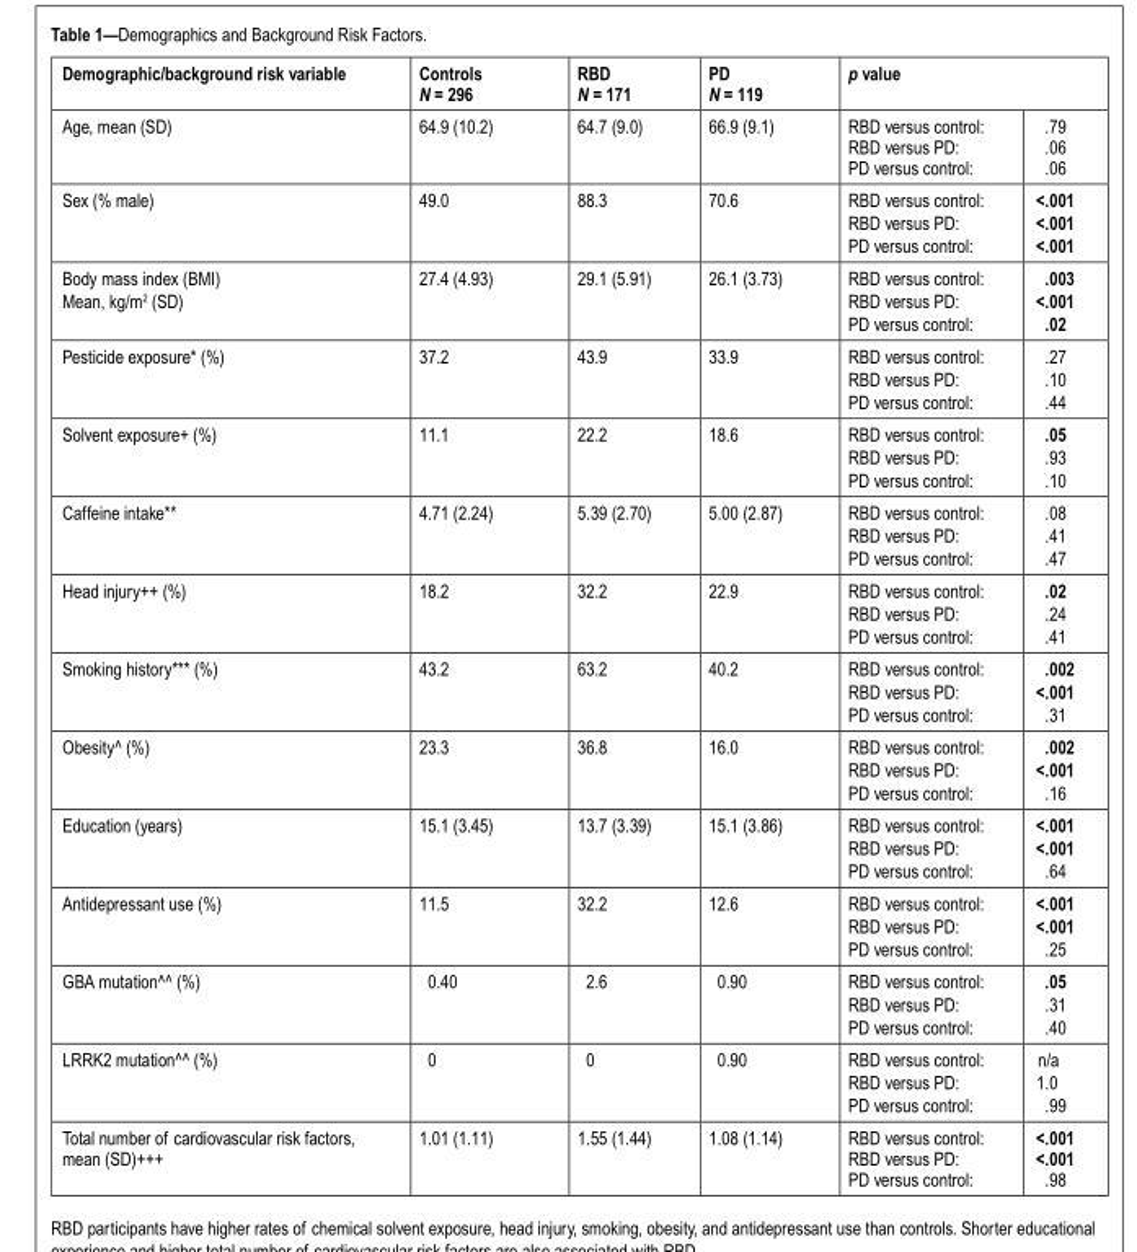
<table><thead><tr><td rowspan="2">Demographic/background risk variable Age, mean (SD)</td><td rowspan="2">Controls N = 296 64.9 (10.2)</td><td rowspan="2">RBD N = 171 64.7 (9.0)</td><td rowspan="2">PD N = 119 66.9 (9.1)</td><td colspan="2">p value</td></tr><tr><td>RBD versus control: RBD versus PD: PD versus control:</td><td>.79 .06 .06</td></tr></thead><tbody><tr><td>Sex (% male)</td><td>49.0</td><td>88.3</td><td>70.6</td><td>RBD versus control: RBD versus PD: PD versus control:</td><td>&lt;.001 &lt;.001 &lt;.001</td></tr><tr><td>Body mass index (BMI) Mean, kg/m<sup>2</sup> (SD)</td><td>27.4 (4.93)</td><td>29.1 (5.91)</td><td>26.1 (3.73)</td><td>RBD versus control: RBD versus PD: PD versus control:</td><td>.003 &lt;.001 .02</td></tr><tr><td>Pesticide exposure* (%)</td><td>37.2</td><td>43.9</td><td>33.9</td><td>RBD versus control: RBD versus PD: PD versus control:</td><td>.27 .10 .44</td></tr><tr><td>Solvent exposure+ (%)</td><td>11.1</td><td>22.2</td><td>18.6</td><td>RBD versus control: RBD versus PD: PD versus control:</td><td>.05 .93 .10</td></tr><tr><td>Caffeine intake**</td><td>4.71 (2.24)</td><td>5.39 (2.70)</td><td>5.00 (2.87)</td><td>RBD versus control: RBD versus PD: PD versus control:</td><td>.08 .41 .47</td></tr><tr><td>Head injury++ (%)</td><td>18.2</td><td>32.2</td><td>22.9</td><td>RBD versus control: RBD versus PD: PD versus control:</td><td>.02 .24 .41</td></tr><tr><td>Smoking history*** (%)</td><td>43.2</td><td>63.2</td><td>40.2</td><td>RBD versus control: RBD versus PD: PD versus control:</td><td>.002 &lt;.001 .31</td></tr><tr><td>Obesity^ (%)</td><td>23.3</td><td>36.8</td><td>16.0</td><td>RBD versus control: RBD versus PD: PD versus control:</td><td>.002 &lt;.001 .16</td></tr><tr><td>Education (years)</td><td>15.1 (3.45)</td><td>13.7 (3.39)</td><td>15.1 (3.86)</td><td>RBD versus control: RBD versus PD: PD versus control:</td><td>&lt;.001 &lt;.001 .64</td></tr><tr><td>Antidepressant use (%)</td><td>11.5</td><td>32.2</td><td>12.6</td><td>RBD versus control: RBD versus PD: PD versus control:</td><td>&lt;.001 &lt;.001 .25</td></tr><tr><td>GBA mutation^^ (%)</td><td>0.40</td><td>2.6</td><td>0.90</td><td>RBD versus control: RBD versus PD: PD versus control:</td><td>.05 .31 .40</td></tr><tr><td>LRRK2 mutation^^ (%)</td><td>0</td><td>0</td><td>0.90</td><td>RBD versus control: RBD versus PD: PD versus control:</td><td>n/a 1.0 .99</td></tr><tr><td>Total number of cardiovascular risk factors, mean (SD)+++</td><td>1.01 (1.11)</td><td>1.55 (1.44)</td><td>1.08 (1.14)</td><td>RBD versus control: RBD versus PD: PD versus control:</td><td>&lt;.001 &lt;.001 .98</td></tr></tbody></table>